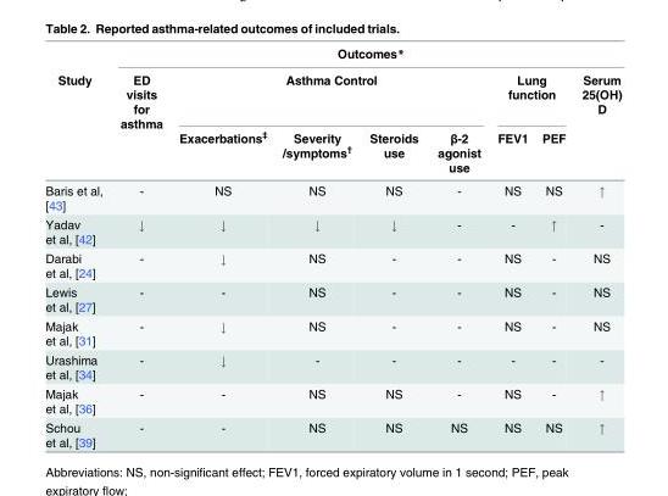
<table><thead><tr><td rowspan="3">Study</td><td colspan="8">Outcomes*</td></tr><tr><td rowspan="2">ED visits for asthma</td><td colspan="4">Asthma Control</td><td colspan="2">Lung function</td><td rowspan="2">Serum 25(OH) D</td></tr><tr><td>Exacerbations<sup>‡</sup></td><td>Severity /symptoms<sup>†</sup></td><td>Steroids use</td><td>β-2 agonist use</td><td>FEV1</td><td>PEF</td></tr></thead><tbody><tr><td>Baris et al, [43]</td><td>-</td><td>NS</td><td>NS</td><td>NS</td><td>-</td><td>NS</td><td>NS</td><td>↑</td></tr><tr><td>Yadav et al, [42]</td><td>↓</td><td>↓</td><td>↓</td><td>↓</td><td>-</td><td>-</td><td>↑</td><td>-</td></tr><tr><td>Darabi et al, [24]</td><td>-</td><td>↓</td><td>NS</td><td>-</td><td>-</td><td>NS</td><td>-</td><td>NS</td></tr><tr><td>Lewis et al, [27]</td><td>-</td><td>-</td><td>NS</td><td>-</td><td>-</td><td>NS</td><td>-</td><td>NS</td></tr><tr><td>Majak et al, [31]</td><td>-</td><td>↓</td><td>NS</td><td>-</td><td>-</td><td>NS</td><td>-</td><td>NS</td></tr><tr><td>Urashima et al, [34]</td><td>-</td><td>↓</td><td>-</td><td>-</td><td>-</td><td>-</td><td>-</td><td>-</td></tr><tr><td>Majak et al, [36]</td><td>-</td><td>-</td><td>NS</td><td>NS</td><td>-</td><td>NS</td><td>-</td><td>↑</td></tr><tr><td>Schou et al, [39]</td><td>-</td><td>-</td><td>NS</td><td>NS</td><td>NS</td><td>NS</td><td>NS</td><td>↑</td></tr></tbody></table>